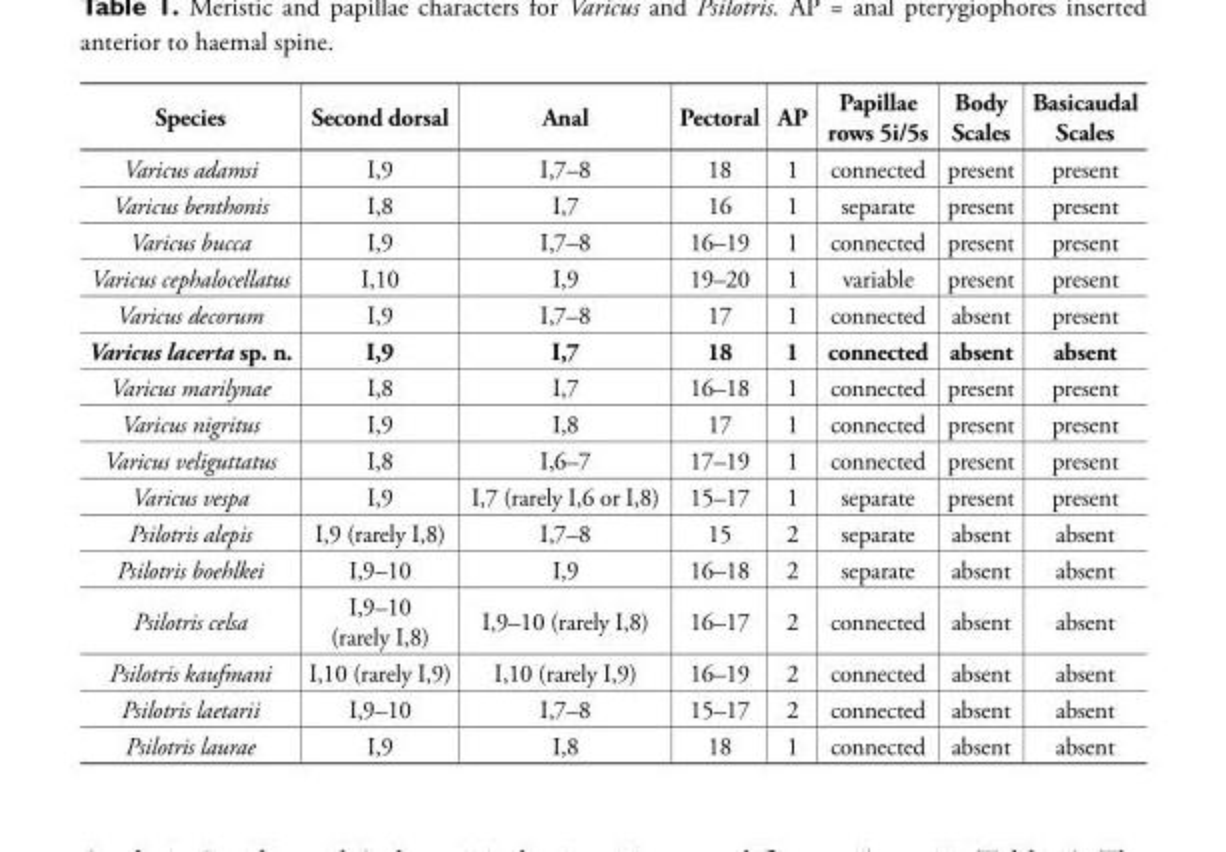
<table><thead><tr><td>Species</td><td>Second dorsal</td><td>Anal</td><td>Pectoral</td><td>AP</td><td>Papillae rows 5i/5s</td><td>Body Scales</td><td>Basicaudal Scales</td></tr></thead><tbody><tr><td>Varicus adamsi</td><td>I,9</td><td>I,7–8</td><td>18</td><td>1</td><td>connected</td><td>present</td><td>present</td></tr><tr><td>Varicus benthonis</td><td>I,8</td><td>I,7</td><td>16</td><td>1</td><td>separate</td><td>present</td><td>present</td></tr><tr><td>Varicus bucca</td><td>I,9</td><td>I,7–8</td><td>16–19</td><td>1</td><td>connected</td><td>present</td><td>present</td></tr><tr><td>Varicus cephalocellatus</td><td>I,10</td><td>I,9</td><td>19–20</td><td>1</td><td>variable</td><td>present</td><td>present</td></tr><tr><td>Varicus decorum</td><td>I,9</td><td>I,7–8</td><td>17</td><td>1</td><td>connected</td><td>absent</td><td>present</td></tr><tr><td>Varicus lacerta sp. n.</td><td>I,9</td><td>I,7</td><td>18</td><td>1</td><td>connected</td><td>absent</td><td>absent</td></tr><tr><td>Varicus marilynae</td><td>I,8</td><td>I,7</td><td>16–18</td><td>1</td><td>connected</td><td>present</td><td>present</td></tr><tr><td>Varicus nigritus</td><td>I,9</td><td>I,8</td><td>17</td><td>1</td><td>connected</td><td>present</td><td>present</td></tr><tr><td>Varicus veliguttatus</td><td>I,8</td><td>I,6–7</td><td>17–19</td><td>1</td><td>connected</td><td>present</td><td>present</td></tr><tr><td>Varicus vespa</td><td>I,9</td><td>I,7 (rarely I,6 or I,8)</td><td>15–17</td><td>1</td><td>separate</td><td>present</td><td>present</td></tr><tr><td>Psilotris alepis</td><td>I,9 (rarely I,8)</td><td>I,7–8</td><td>15</td><td>2</td><td>separate</td><td>absent</td><td>absent</td></tr><tr><td>Psilotris boehlkei</td><td>I,9–10</td><td>I,9</td><td>16–18</td><td>2</td><td>separate</td><td>absent</td><td>absent</td></tr><tr><td>Psilotris celsa</td><td>I,9–10 (rarely I,8)</td><td>I,9–10 (rarely I,8)</td><td>16–17</td><td>2</td><td>connected</td><td>absent</td><td>absent</td></tr><tr><td>Psilotris kaufmani</td><td>I,10 (rarely I,9)</td><td>I,10 (rarely I,9)</td><td>16–19</td><td>2</td><td>connected</td><td>absent</td><td>absent</td></tr><tr><td>Psilotris laetarii</td><td>I,9–10</td><td>I,7–8</td><td>15–17</td><td>2</td><td>connected</td><td>absent</td><td>absent</td></tr><tr><td>Psilotris laurae</td><td>I,9</td><td>I,8</td><td>18</td><td>1</td><td>connected</td><td>absent</td><td>absent</td></tr></tbody></table>